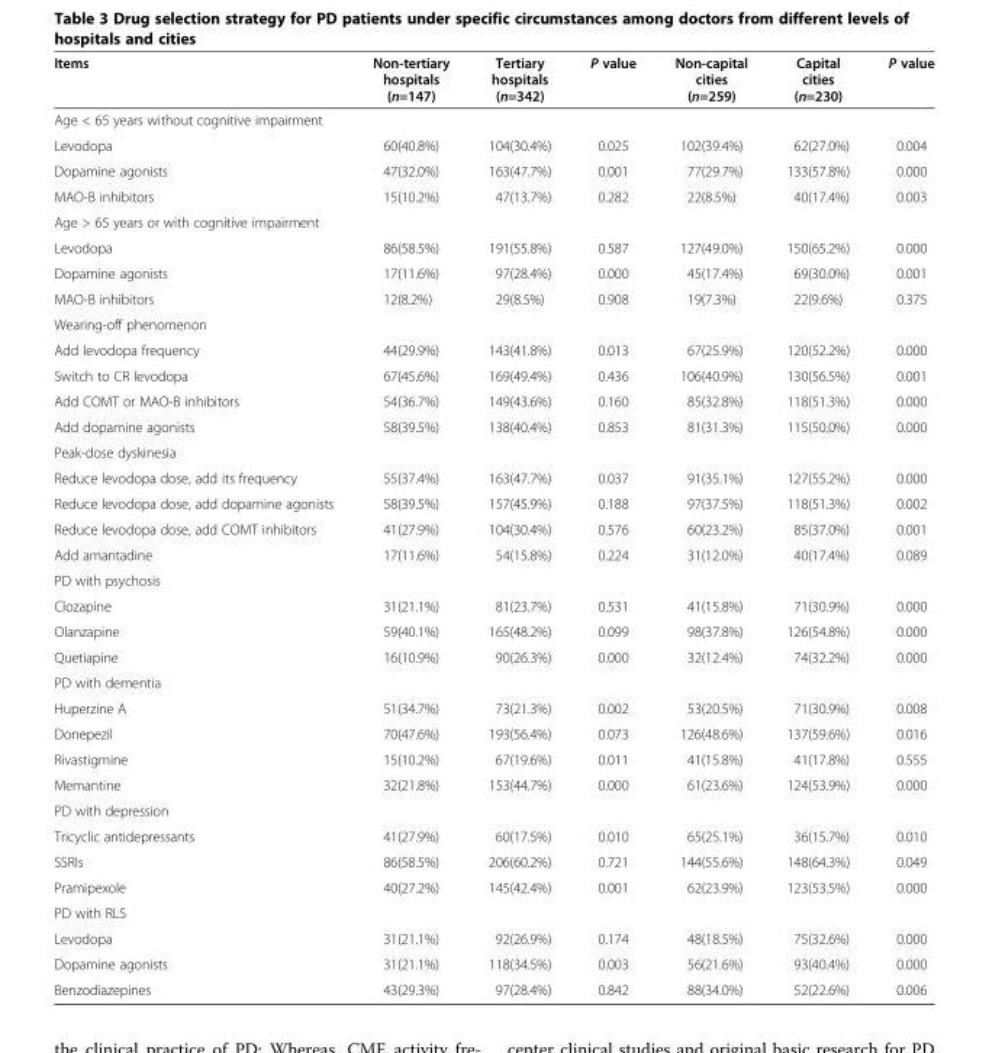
<table><thead><tr><td>Items</td><td>Non-tertiary hospitals (n=147)</td><td>Tertiary hospitals (n=342)</td><td>P value</td><td>Non-capital cities (n=259)</td><td>Capital cities (n=230)</td><td>P value</td></tr></thead><tbody><tr><td colspan="7">Age &lt; 65 years without cognitive impairment</td></tr><tr><td>Levodopa</td><td>60(40.8%)</td><td>104(30.4%)</td><td>0.025</td><td>102(39.4%)</td><td>62(27.0%)</td><td>0.004</td></tr><tr><td>Dopamine agonists</td><td>47(32.0%)</td><td>163(47.7%)</td><td>0.001</td><td>77(29.7%)</td><td>133(57.8%)</td><td>0.000</td></tr><tr><td>MAO-B inhibitors</td><td>15(10.2%)</td><td>47(13.7%)</td><td>0.282</td><td>22(8.5%)</td><td>40(17.4%)</td><td>0.003</td></tr><tr><td colspan="7">Age &gt; 65 years or with cognitive impairment</td></tr><tr><td>Levodopa</td><td>86(58.5%)</td><td>191(55.8%)</td><td>0.587</td><td>127(49.0%)</td><td>150(65.2%)</td><td>0.000</td></tr><tr><td>Dopamine agonists</td><td>17(11.6%)</td><td>97(28.4%)</td><td>0.000</td><td>45(17.4%)</td><td>69(30.0%)</td><td>0.001</td></tr><tr><td>MAO-B inhibitors</td><td>12(8.2%)</td><td>29(8.5%)</td><td>0.908</td><td>19(7.3%)</td><td>22(9.6%)</td><td>0.375</td></tr><tr><td colspan="7">Wearing-off phenomenon</td></tr><tr><td>Add levodopa frequency</td><td>44(29.9%)</td><td>143(41.8%)</td><td>0.013</td><td>67(25.9%)</td><td>120(52.2%)</td><td>0.000</td></tr><tr><td>Switch to CR levodopa</td><td>67(45.6%)</td><td>169(49.4%)</td><td>0.436</td><td>106(40.9%)</td><td>130(56.5%)</td><td>0.001</td></tr><tr><td>Add COMT or MAO-B inhibitors</td><td>54(36.7%)</td><td>149(43.6%)</td><td>0.160</td><td>85(32.8%)</td><td>118(51.3%)</td><td>0.000</td></tr><tr><td>Add dopamine agonists</td><td>58(39.5%)</td><td>138(40.4%)</td><td>0.853</td><td>81(31.3%)</td><td>115(50.0%)</td><td>0.000</td></tr><tr><td colspan="7">Peak-dose dyskinesia</td></tr><tr><td>Reduce levodopa dose, add its frequency</td><td>55(37.4%)</td><td>163(47.7%)</td><td>0.037</td><td>91(35.1%)</td><td>127(55.2%)</td><td>0.000</td></tr><tr><td>Reduce levodopa dose, add dopamine agonists</td><td>58(39.5%)</td><td>157(45.9%)</td><td>0.188</td><td>97(37.5%)</td><td>118(51.3%)</td><td>0.002</td></tr><tr><td>Reduce levodopa dose, add COMT inhibitors</td><td>41(27.9%)</td><td>104(30.4%)</td><td>0.576</td><td>60(23.2%)</td><td>85(37.0%)</td><td>0.001</td></tr><tr><td>Add amantadine</td><td>17(11.6%)</td><td>54(15.8%)</td><td>0.224</td><td>31(12.0%)</td><td>40(17.4%)</td><td>0.089</td></tr><tr><td colspan="7">PD with psychosis</td></tr><tr><td>Clozapine</td><td>31(21.1%)</td><td>81(23.7%)</td><td>0.531</td><td>41(15.8%)</td><td>71(30.9%)</td><td>0.000</td></tr><tr><td>Olanzapine</td><td>59(40.1%)</td><td>165(48.2%)</td><td>0.099</td><td>98(37.8%)</td><td>126(54.8%)</td><td>0.000</td></tr><tr><td>Quetiapine</td><td>16(10.9%)</td><td>90(26.3%)</td><td>0.000</td><td>32(12.4%)</td><td>74(32.2%)</td><td>0.000</td></tr><tr><td colspan="7">PD with dementia</td></tr><tr><td>Huperzine A</td><td>51(34.7%)</td><td>73(21.3%)</td><td>0.002</td><td>53(20.5%)</td><td>71(30.9%)</td><td>0.008</td></tr><tr><td>Donepezil</td><td>70(47.6%)</td><td>193(56.4%)</td><td>0.073</td><td>126(48.6%)</td><td>137(59.6%)</td><td>0.016</td></tr><tr><td>Rivastigmine</td><td>15(10.2%)</td><td>67(19.6%)</td><td>0.011</td><td>41(15.8%)</td><td>41(17.8%)</td><td>0.555</td></tr><tr><td>Memantine</td><td>32(21.8%)</td><td>153(44.7%)</td><td>0.000</td><td>61(23.6%)</td><td>124(53.9%)</td><td>0.000</td></tr><tr><td colspan="7">PD with depression</td></tr><tr><td>Tricyclic antidepressants</td><td>41(27.9%)</td><td>60(17.5%)</td><td>0.010</td><td>65(25.1%)</td><td>36(15.7%)</td><td>0.010</td></tr><tr><td>SSRIs</td><td>86(58.5%)</td><td>206(60.2%)</td><td>0.721</td><td>144(55.6%)</td><td>148(64.3%)</td><td>0.049</td></tr><tr><td>Pramipexole</td><td>40(27.2%)</td><td>145(42.4%)</td><td>0.001</td><td>62(23.9%)</td><td>123(53.5%)</td><td>0.000</td></tr><tr><td colspan="7">PD with RLS</td></tr><tr><td>Levodopa</td><td>31(21.1%)</td><td>92(26.9%)</td><td>0.174</td><td>48(18.5%)</td><td>75(32.6%)</td><td>0.000</td></tr><tr><td>Dopamine agonists</td><td>31(21.1%)</td><td>118(34.5%)</td><td>0.003</td><td>56(21.6%)</td><td>93(40.4%)</td><td>0.000</td></tr><tr><td>Benzodiazepines</td><td>43(29.3%)</td><td>97(28.4%)</td><td>0.842</td><td>88(34.0%)</td><td>52(22.6%)</td><td>0.006</td></tr></tbody></table>